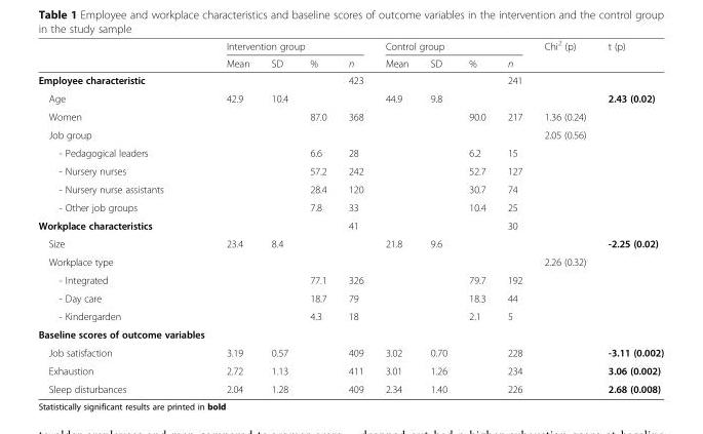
<table><thead><tr><td rowspan="2"></td><td colspan="4">Intervention group</td><td colspan="4">Control group</td><td rowspan="2">Chi<sup>2</sup> (p)</td><td rowspan="2">t (p)</td></tr><tr><td>Mean</td><td>SD</td><td>%</td><td>n</td><td>Mean</td><td>SD</td><td>%</td><td>n</td></tr></thead><tbody><tr><td>Employee characteristic</td><td></td><td></td><td></td><td>423</td><td></td><td></td><td></td><td>241</td><td></td><td></td></tr><tr><td>Age</td><td>42.9</td><td>10.4</td><td></td><td></td><td>44.9</td><td>9.8</td><td></td><td></td><td></td><td>2.43 (0.02)</td></tr><tr><td>Women</td><td></td><td></td><td>87.0</td><td>368</td><td></td><td></td><td>90.0</td><td>217</td><td>1.36 (0.24)</td><td></td></tr><tr><td>Job group</td><td colspan="8"></td><td>2.05 (0.56)</td><td></td></tr><tr><td>- Pedagogical leaders</td><td></td><td></td><td>6.6</td><td>28</td><td></td><td></td><td>6.2</td><td>15</td><td></td><td></td></tr><tr><td>- Nursery nurses</td><td></td><td></td><td>57.2</td><td>242</td><td></td><td></td><td>52.7</td><td>127</td><td></td><td></td></tr><tr><td>- Nursery nurse assistants</td><td></td><td></td><td>28.4</td><td>120</td><td></td><td></td><td>30.7</td><td>74</td><td></td><td></td></tr><tr><td>- Other job groups</td><td></td><td></td><td>7.8</td><td>33</td><td></td><td></td><td>10.4</td><td>25</td><td></td><td></td></tr><tr><td>Workplace characteristics</td><td></td><td></td><td></td><td>41</td><td></td><td></td><td></td><td>30</td><td></td><td></td></tr><tr><td>Size</td><td>23.4</td><td>8.4</td><td></td><td></td><td>21.8</td><td>9.6</td><td></td><td></td><td></td><td>-2.25 (0.02)</td></tr><tr><td>Workplace type</td><td colspan="8"></td><td>2.26 (0.32)</td><td></td></tr><tr><td>- Integrated</td><td></td><td></td><td>77.1</td><td>326</td><td></td><td></td><td>79.7</td><td>192</td><td></td><td></td></tr><tr><td>- Day care</td><td></td><td></td><td>18.7</td><td>79</td><td></td><td></td><td>18.3</td><td>44</td><td></td><td></td></tr><tr><td>- Kindergarden</td><td></td><td></td><td>4.3</td><td>18</td><td></td><td></td><td>2.1</td><td>5</td><td></td><td></td></tr><tr><td colspan="11">Baseline scores of outcome variables</td></tr><tr><td>Job satisfaction</td><td>3.19</td><td>0.57</td><td></td><td>409</td><td>3.02</td><td>0.70</td><td></td><td>228</td><td></td><td>-3.11 (0.002)</td></tr><tr><td>Exhaustion</td><td>2.72</td><td>1.13</td><td></td><td>411</td><td>3.01</td><td>1.26</td><td></td><td>234</td><td></td><td>3.06 (0.002)</td></tr><tr><td>Sleep disturbances</td><td>2.04</td><td>1.28</td><td></td><td>409</td><td>2.34</td><td>1.40</td><td></td><td>226</td><td></td><td>2.68 (0.008)</td></tr></tbody></table>